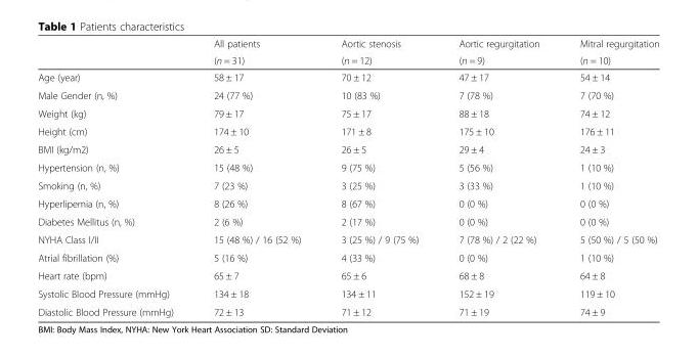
<table><thead><tr><td rowspan="2"></td><td rowspan="2">All patients (n = 31)</td><td rowspan="2">Aortic stenosis (n = 12)</td><td rowspan="2">Aortic regurgitation (n = 9)</td><td rowspan="2">Mitral regurgitation (n = 10)</td></tr><tr></tr></thead><tbody><tr><td>Age (year)</td><td>58 ± 17</td><td>70 ± 12</td><td>47 ± 17</td><td>54 ± 14</td></tr><tr><td>Male Gender (n, %)</td><td>24 (77 %)</td><td>10 (83 %)</td><td>7 (78 %)</td><td>7 (70 %)</td></tr><tr><td>Weight (kg)</td><td>79 ± 17</td><td>75 ± 17</td><td>88 ± 18</td><td>74 ± 12</td></tr><tr><td>Height (cm)</td><td>174 ± 10</td><td>171 ± 8</td><td>175 ± 10</td><td>176 ± 11</td></tr><tr><td>BMI (kg/m2)</td><td>26 ± 5</td><td>26 ± 5</td><td>29 ± 4</td><td>24 ± 3</td></tr><tr><td>Hypertension (n, %)</td><td>15 (48 %)</td><td>9 (75 %)</td><td>5 (56 %)</td><td>1 (10 %)</td></tr><tr><td>Smoking (n, %)</td><td>7 (23 %)</td><td>3 (25 %)</td><td>3 (33 %)</td><td>1 (10 %)</td></tr><tr><td>Hyperlipemia (n, %)</td><td>8 (26 %)</td><td>8 (67 %)</td><td>0 (0 %)</td><td>0 (0 %)</td></tr><tr><td>Diabetes Mellitus (n, %)</td><td>2 (6 %)</td><td>2 (17 %)</td><td>0 (0 %)</td><td>0 (0 %)</td></tr><tr><td>NYHA Class I/II</td><td>15 (48 %) / 16 (52 %)</td><td>3 (25 %) / 9 (75 %)</td><td>7 (78 %) / 2 (22 %)</td><td>5 (50 %) / 5 (50 %)</td></tr><tr><td>Atrial fibrillation (%)</td><td>5 (16 %)</td><td>4 (33 %)</td><td>0 (0 %)</td><td>1 (10 %)</td></tr><tr><td>Heart rate (bpm)</td><td>65 ± 7</td><td>65 ± 6</td><td>68 ± 8</td><td>64 ± 8</td></tr><tr><td>Systolic Blood Pressure (mmHg)</td><td>134 ± 18</td><td>134 ± 11</td><td>152 ± 19</td><td>119 ± 10</td></tr><tr><td>Diastolic Blood Pressure (mmHg)</td><td>72 ± 13</td><td>71 ± 12</td><td>71 ± 19</td><td>74 ± 9</td></tr></tbody></table>